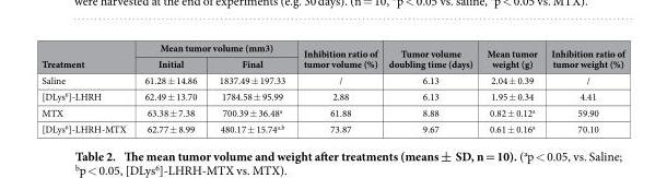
<table><thead><tr><td rowspan="2">Treatment</td><td colspan="2">Mean tumor volume (mm3)</td><td rowspan="2">Inhibition ratio of tumor volume (%)</td><td rowspan="2">Tumor volume doubling time (days)</td><td rowspan="2">Mean tumor weight (g)</td><td rowspan="2">Inhibition ratio of tumor weight (%)</td></tr><tr><td>Initial</td><td>Final</td></tr></thead><tbody><tr><td>Saline</td><td>61.28 ± 14.86</td><td>1837.49 ± 197.33</td><td>/</td><td>6.13</td><td>2.04 ± 0.39</td><td>/</td></tr><tr><td>[DLys<sup>6</sup>]-LHRH</td><td>62.49 ± 13.70</td><td>1784.58 ± 95.99</td><td>2.88</td><td>6.13</td><td>1.95 ± 0.34</td><td>4.41</td></tr><tr><td>MTX</td><td>63.38 ± 7.38</td><td>700.39 ± 36.48<sup>a</sup></td><td>61.88</td><td>8.88</td><td>0.82 ± 0.12<sup>a</sup></td><td>59.90</td></tr><tr><td>[DLys<sup>6</sup>]-LHRH-MTX</td><td>62.77 ± 8.99</td><td>480.17 ± 15.74<sup>a</sup>,<sup>b</sup></td><td>73.87</td><td>9.67</td><td>0.61 ± 0.16<sup>a</sup></td><td>70.10</td></tr></tbody></table>